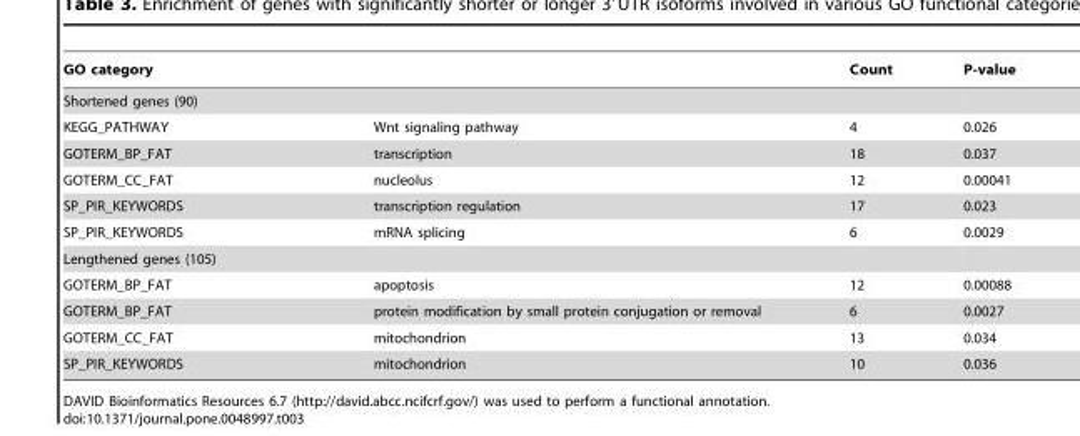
<table><thead><tr><td colspan="2">GO category</td><td rowspan="2">Count</td><td rowspan="2">P-value</td></tr><tr><td>Shortened genes (90)</td><td></td></tr></thead><tbody><tr><td>KEGG_PATHWAY</td><td>Wnt signaling pathway</td><td>4</td><td>0.026</td></tr><tr><td>GOTERM_BP_FAT</td><td>transcription</td><td>18</td><td>0.037</td></tr><tr><td>GOTERM_CC_FAT</td><td>nucleolus</td><td>12</td><td>0.00041</td></tr><tr><td>SP_PIR_KEYWORDS</td><td>transcription regulation</td><td>17</td><td>0.023</td></tr><tr><td>SP_PIR_KEYWORDS</td><td>mRNA splicing</td><td>6</td><td>0.0029</td></tr><tr><td colspan="4">Lengthened genes (105)</td></tr><tr><td>GOTERM_BP_FAT</td><td>apoptosis</td><td>12</td><td>0.00088</td></tr><tr><td>GOTERM_BP_FAT</td><td>protein modification by small protein conjugation or removal</td><td>6</td><td>0.0027</td></tr><tr><td>GOTERM_CC_FAT</td><td>mitochondrion</td><td>13</td><td>0.034</td></tr><tr><td>SP_PIR_KEYWORDS</td><td>mitochondrion</td><td>10</td><td>0.036</td></tr></tbody></table>